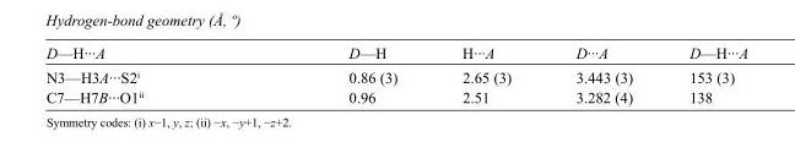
<table><tbody><tr><td>D—H···A</td><td>D—H</td><td>H···A</td><td>D···A</td><td>D—H···A</td></tr><tr><td>N3—H3A···S2<sup>i</sup></td><td>0.86 (3)</td><td>2.65 (3)</td><td>3.443 (3)</td><td>153 (3)</td></tr><tr><td>C7—H7B···O1<sup>ii</sup></td><td>0.96</td><td>2.51</td><td>3.282 (4)</td><td>138</td></tr></tbody></table>